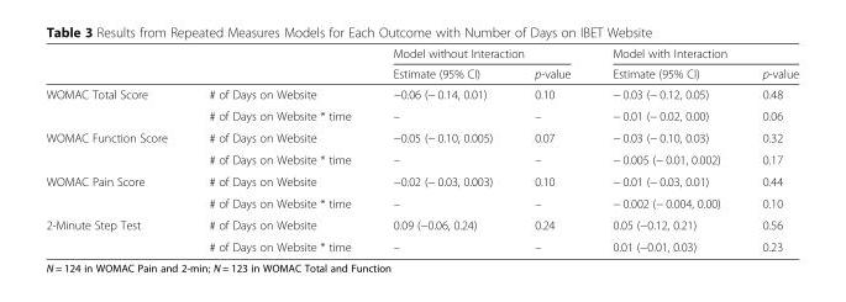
<table><thead><tr><td rowspan="2"></td><td rowspan="2"></td><td colspan="2">Model without Interaction</td><td colspan="2">Model with Interaction</td></tr><tr><td>Estimate (95% CI)</td><td>p-value</td><td>Estimate (95% CI)</td><td>p-value</td></tr></thead><tbody><tr><td rowspan="2">WOMAC Total Score</td><td># of Days on Website</td><td>−0.06 (− 0.14, 0.01)</td><td>0.10</td><td>− 0.03 (− 0.12, 0.05)</td><td>0.48</td></tr><tr><td># of Days on Website * time</td><td>–</td><td>–</td><td>− 0.01 (− 0.02, 0.00)</td><td>0.06</td></tr><tr><td rowspan="2">WOMAC Function Score</td><td># of Days on Website</td><td>−0.05 (− 0.10, 0.005)</td><td>0.07</td><td>− 0.03 (− 0.10, 0.03)</td><td>0.32</td></tr><tr><td># of Days on Website * time</td><td>–</td><td>–</td><td>− 0.005 (− 0.01, 0.002)</td><td>0.17</td></tr><tr><td rowspan="2">WOMAC Pain Score</td><td># of Days on Website</td><td>−0.02 (− 0.03, 0.003)</td><td>0.10</td><td>− 0.01 (− 0.03, 0.01)</td><td>0.44</td></tr><tr><td># of Days on Website * time</td><td>–</td><td>–</td><td>− 0.002 (− 0.004, 0.00)</td><td>0.10</td></tr><tr><td rowspan="2">2-Minute Step Test</td><td># of Days on Website</td><td>0.09 (−0.06, 0.24)</td><td>0.24</td><td>0.05 (−0.12, 0.21)</td><td>0.56</td></tr><tr><td># of Days on Website * time</td><td>–</td><td>–</td><td>0.01 (−0.01, 0.03)</td><td>0.23</td></tr></tbody></table>